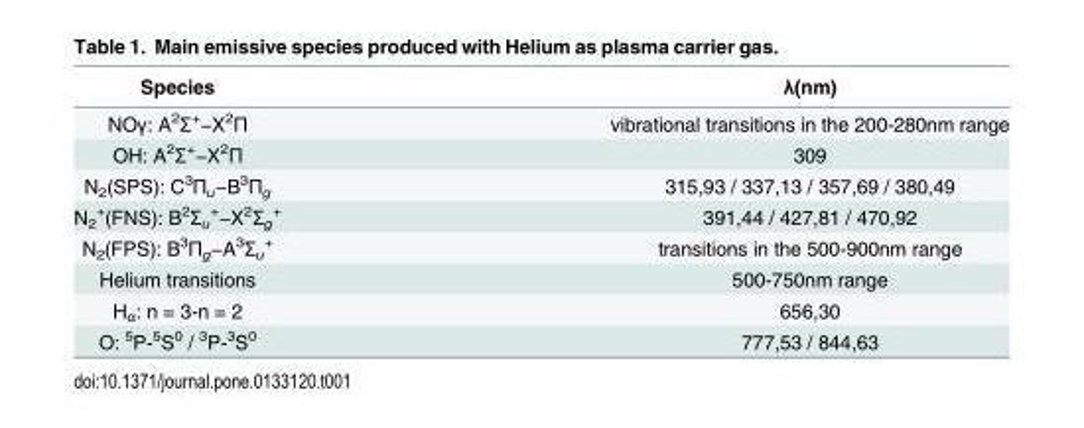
<table><thead><tr><td>Species</td><td>λ(nm)</td></tr></thead><tbody><tr><td>NOγ: A<sup>2</sup>Σ<sup>+</sup>−X<sup>2</sup>Π</td><td>vibrational transitions in the 200-280nm range</td></tr><tr><td>OH: A<sup>2</sup>Σ<sup>+</sup>−X<sup>2</sup>Π</td><td>309</td></tr><tr><td>N<sub>2</sub>(SPS): C<sup>3</sup>Π<sub>u</sub>−B<sup>3</sup>Π<sub>g</sub></td><td>315,93 / 337,13 / 357,69 / 380,49</td></tr><tr><td>N<sub>2</sub> <sup>+</sup>(FNS): B<sup>2</sup>Σ<sub>u</sub> <sup>+</sup>−X<sup>2</sup>Σ<sub>g</sub> <sup>+</sup></td><td>391,44 / 427,81 / 470,92</td></tr><tr><td>N<sub>2</sub>(FPS): B<sup>3</sup>Π<sub>g</sub>−A<sup>3</sup>Σ<sub>u</sub> <sup>+</sup></td><td>transitions in the 500-900nm range</td></tr><tr><td>Helium transitions</td><td>500-750nm range</td></tr><tr><td>H<sub>α</sub>: n = 3-n = 2</td><td>656,30</td></tr><tr><td>O: <sup>5</sup>P-<sup>5</sup>S<sup>0</sup> / <sup>3</sup>P-<sup>3</sup>S<sup>0</sup></td><td>777,53 / 844,63</td></tr></tbody></table>